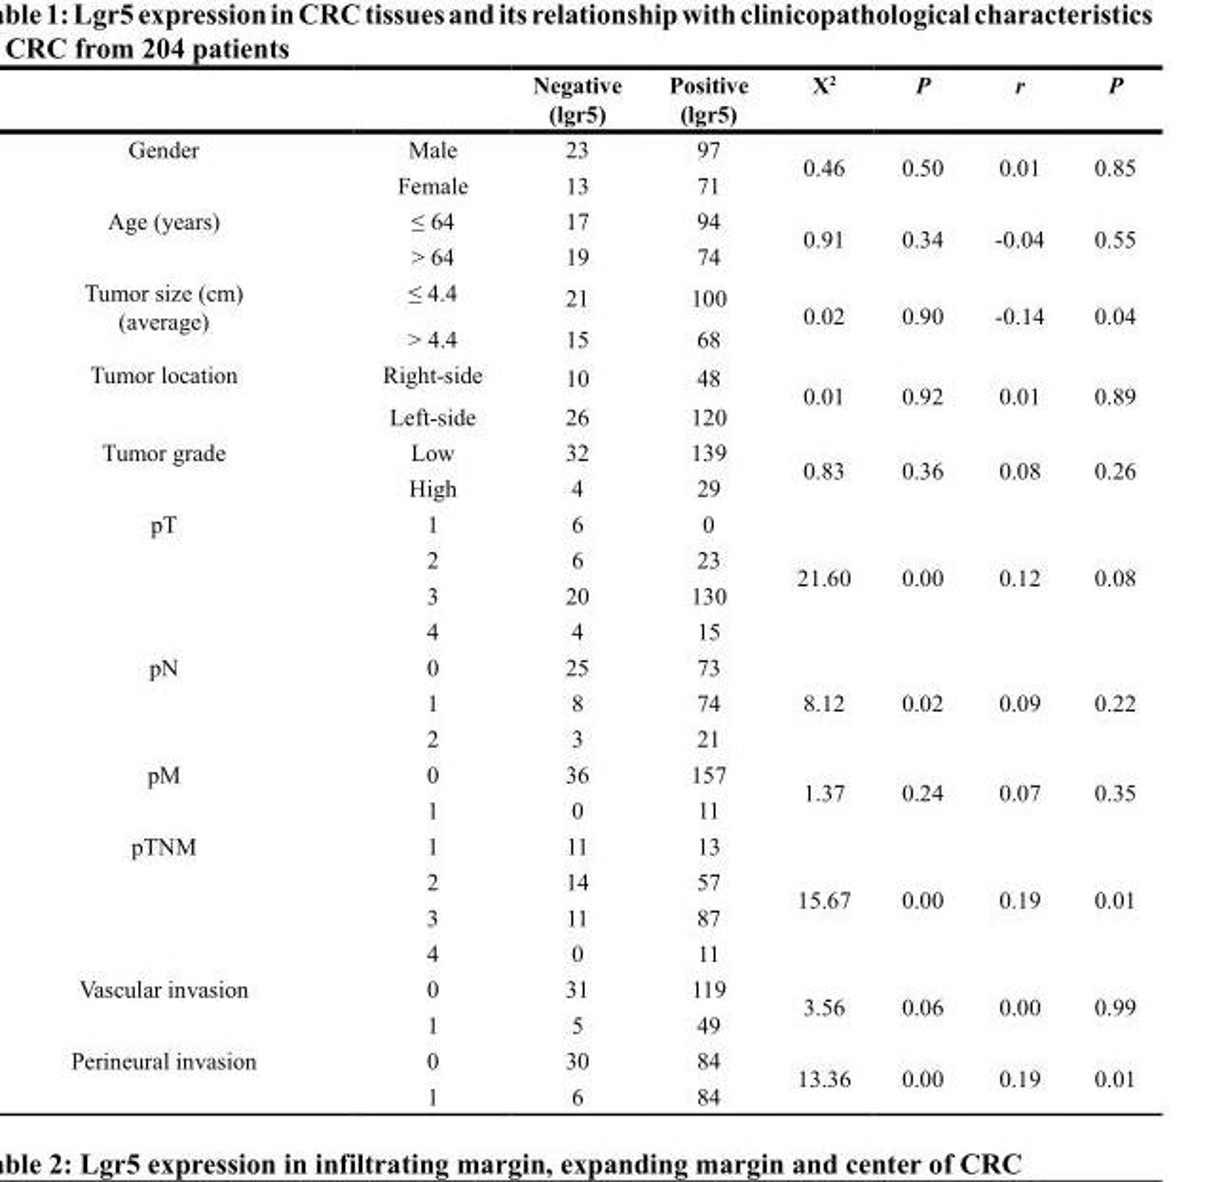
<table><thead><tr><td></td><td></td><td>Negative (lgr5)</td><td>Positive (lgr5)</td><td>X<sup>2</sup></td><td>P</td><td>r</td><td>P</td></tr></thead><tbody><tr><td rowspan="2">Gender</td><td>Male</td><td>23</td><td>97</td><td rowspan="2">0.46</td><td rowspan="2">0.50</td><td rowspan="2">0.01</td><td rowspan="2">0.85</td></tr><tr><td>Female</td><td>13</td><td>71</td></tr><tr><td rowspan="2">Age (years)</td><td>≤ 64</td><td>17</td><td>94</td><td rowspan="2">0.91</td><td rowspan="2">0.34</td><td rowspan="2">-0.04</td><td rowspan="2">0.55</td></tr><tr><td>&gt; 64</td><td>19</td><td>74</td></tr><tr><td rowspan="2">Tumor size (cm) (average)</td><td>≤ 4.4</td><td>21</td><td>100</td><td rowspan="2">0.02</td><td rowspan="2">0.90</td><td rowspan="2">-0.14</td><td rowspan="2">0.04</td></tr><tr><td>&gt; 4.4</td><td>15</td><td>68</td></tr><tr><td rowspan="2">Tumor location</td><td>Right-side</td><td>10</td><td>48</td><td rowspan="2">0.01</td><td rowspan="2">0.92</td><td rowspan="2">0.01</td><td rowspan="2">0.89</td></tr><tr><td>Left-side</td><td>26</td><td>120</td></tr><tr><td rowspan="2">Tumor grade</td><td>Low</td><td>32</td><td>139</td><td rowspan="2">0.83</td><td rowspan="2">0.36</td><td rowspan="2">0.08</td><td rowspan="2">0.26</td></tr><tr><td>High</td><td>4</td><td>29</td></tr><tr><td rowspan="4">pT</td><td>1</td><td>6</td><td>0</td><td rowspan="4">21.60</td><td rowspan="4">0.00</td><td rowspan="4">0.12</td><td rowspan="4">0.08</td></tr><tr><td>2</td><td>6</td><td>23</td></tr><tr><td>3</td><td>20</td><td>130</td></tr><tr><td>4</td><td>4</td><td>15</td></tr><tr><td rowspan="3">pN</td><td>0</td><td>25</td><td>73</td><td rowspan="3">8.12</td><td rowspan="3">0.02</td><td rowspan="3">0.09</td><td rowspan="3">0.22</td></tr><tr><td>1</td><td>8</td><td>74</td></tr><tr><td>2</td><td>3</td><td>21</td></tr><tr><td rowspan="2">pM</td><td>0</td><td>36</td><td>157</td><td rowspan="2">1.37</td><td rowspan="2">0.24</td><td rowspan="2">0.07</td><td rowspan="2">0.35</td></tr><tr><td>1</td><td>0</td><td>11</td></tr><tr><td rowspan="4">pTNM</td><td>1</td><td>11</td><td>13</td><td rowspan="4">15.67</td><td rowspan="4">0.00</td><td rowspan="4">0.19</td><td rowspan="4">0.01</td></tr><tr><td>2</td><td>14</td><td>57</td></tr><tr><td>3</td><td>11</td><td>87</td></tr><tr><td>4</td><td>0</td><td>11</td></tr><tr><td rowspan="2">Vascular invasion</td><td>0</td><td>31</td><td>119</td><td rowspan="2">3.56</td><td rowspan="2">0.06</td><td rowspan="2">0.00</td><td rowspan="2">0.99</td></tr><tr><td>1</td><td>5</td><td>49</td></tr><tr><td rowspan="2">Perineural invasion</td><td>0</td><td>30</td><td>84</td><td rowspan="2">13.36</td><td rowspan="2">0.00</td><td rowspan="2">0.19</td><td rowspan="2">0.01</td></tr><tr><td>1</td><td>6</td><td>84</td></tr></tbody></table>